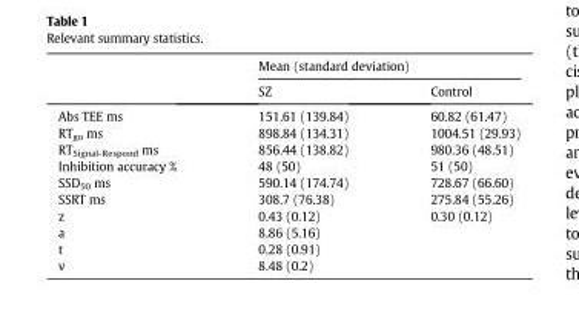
<table><thead><tr><td rowspan="2"></td><td colspan="2">Mean (standard deviation)</td></tr><tr><td>SZ</td><td>Control</td></tr></thead><tbody><tr><td>Abs TEE ms</td><td>151.61 (139.84)</td><td>60.82 (61.47)</td></tr><tr><td>RT<sub>go</sub> ms</td><td>898.84 (134.31)</td><td>1004.51 (29.93)</td></tr><tr><td>RT<sub>Signal-Respond</sub> ms</td><td>856.44 (138.82)</td><td>980.36 (48.51)</td></tr><tr><td>Inhibition accuracy %</td><td>48 (50)</td><td>51 (50)</td></tr><tr><td>SSD<sub>50</sub> ms</td><td>590.14 (174.74)</td><td>728.67 (66.60)</td></tr><tr><td>SSRT ms</td><td>308.7 (76.38)</td><td>275.84 (55.26)</td></tr><tr><td>z</td><td>0.43 (0.12)</td><td>0.30 (0.12)</td></tr><tr><td>a</td><td colspan="2">8.86 (5.16)</td></tr><tr><td>t</td><td colspan="2">0.28 (0.91)</td></tr><tr><td>v</td><td colspan="2">8.48 (0.2)</td></tr></tbody></table>